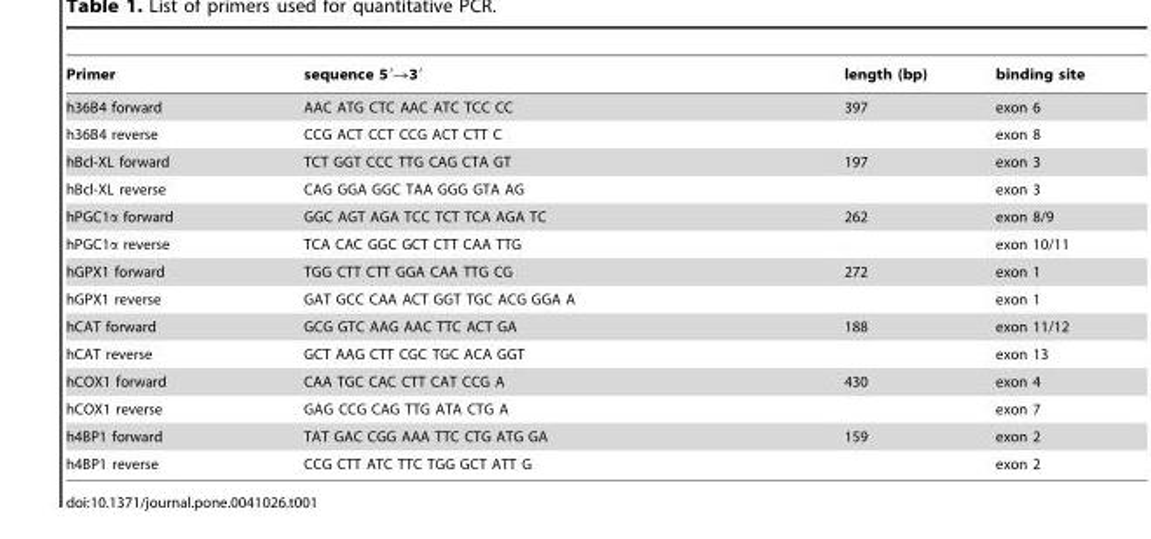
<table><thead><tr><td>Primer</td><td>sequence 5′→3′</td><td>length (bp)</td><td>binding site</td></tr></thead><tbody><tr><td>h36B4 forward</td><td>AAC ATG CTC AAC ATC TCC CC</td><td>397</td><td>exon 6</td></tr><tr><td>h36B4 reverse</td><td>CCG ACT CCT CCG ACT CTT C</td><td></td><td>exon 8</td></tr><tr><td>hBcl-XL forward</td><td>TCT GGT CCC TTG CAG CTA GT</td><td>197</td><td>exon 3</td></tr><tr><td>hBcl-XL reverse</td><td>CAG GGA GGC TAA GGG GTA AG</td><td></td><td>exon 3</td></tr><tr><td>hPGC1α forward</td><td>GGC AGT AGA TCC TCT TCA AGA TC</td><td>262</td><td>exon 8/9</td></tr><tr><td>hPGC1α reverse</td><td>TCA CAC GGC GCT CTT CAA TTG</td><td></td><td>exon 10/11</td></tr><tr><td>hGPX1 forward</td><td>TGG CTT CTT GGA CAA TTG CG</td><td>272</td><td>exon 1</td></tr><tr><td>hGPX1 reverse</td><td>GAT GCC CAA ACT GGT TGC ACG GGA A</td><td></td><td>exon 1</td></tr><tr><td>hCAT forward</td><td>GCG GTC AAG AAC TTC ACT GA</td><td>188</td><td>exon 11/12</td></tr><tr><td>hCAT reverse</td><td>GCT AAG CTT CGC TGC ACA GGT</td><td></td><td>exon 13</td></tr><tr><td>hCOX1 forward</td><td>CAA TGC CAC CTT CAT CCG A</td><td>430</td><td>exon 4</td></tr><tr><td>hCOX1 reverse</td><td>GAG CCG CAG TTG ATA CTG A</td><td></td><td>exon 7</td></tr><tr><td>h4BP1 forward</td><td>TAT GAC CGG AAA TTC CTG ATG GA</td><td>159</td><td>exon 2</td></tr><tr><td>h4BP1 reverse</td><td>CCG CTT ATC TTC TGG GCT ATT G</td><td></td><td>exon 2</td></tr></tbody></table>